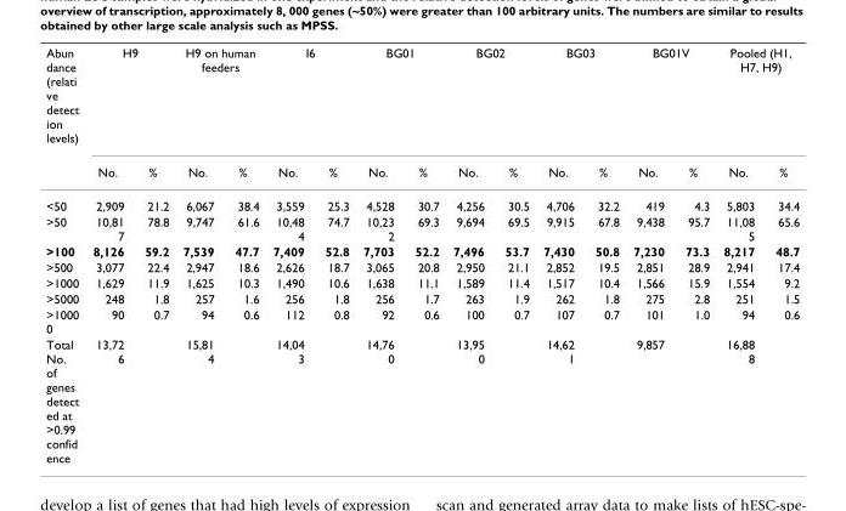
<table><thead><tr><td rowspan="2">Abun dance (relati ve detect ion levels)</td><td colspan="2">H9</td><td colspan="2">H9 on human feeders</td><td colspan="2">I6</td><td colspan="2">BG01</td><td colspan="2">BG02</td><td colspan="2">BG03</td><td colspan="2">BG01V</td><td colspan="2">Pooled (H1, H7, H9)</td></tr><tr><td>No.</td><td>%</td><td>No.</td><td>%</td><td>No.</td><td>%</td><td>No.</td><td>%</td><td>No.</td><td>%</td><td>No.</td><td>%</td><td>No.</td><td>%</td><td>No.</td><td>%</td></tr></thead><tbody><tr><td>&lt;50</td><td>2,909</td><td>21.2</td><td>6,067</td><td>38.4</td><td>3,559</td><td>25.3</td><td>4,528</td><td>30.7</td><td>4,256</td><td>30.5</td><td>4,706</td><td>32.2</td><td>419</td><td>4.3</td><td>5,803</td><td>34.4</td></tr><tr><td>&gt;50</td><td>10,81 7</td><td>78.8</td><td>9,747</td><td>61.6</td><td>10,48 4</td><td>74.7</td><td>10,23 2</td><td>69.3</td><td>9,694</td><td>69.5</td><td>9,915</td><td>67.8</td><td>9,438</td><td>95.7</td><td>11,08 5</td><td>65.6</td></tr><tr><td>&gt;100</td><td>8,126</td><td>59.2</td><td>7,539</td><td>47.7</td><td>7,409</td><td>52.8</td><td>7,703</td><td>52.2</td><td>7,496</td><td>53.7</td><td>7,430</td><td>50.8</td><td>7,230</td><td>73.3</td><td>8,217</td><td>48.7</td></tr><tr><td>&gt;500</td><td>3,077</td><td>22.4</td><td>2,947</td><td>18.6</td><td>2,626</td><td>18.7</td><td>3,065</td><td>20.8</td><td>2,950</td><td>21.1</td><td>2,852</td><td>19.5</td><td>2,851</td><td>28.9</td><td>2,941</td><td>17.4</td></tr><tr><td>&gt;1000</td><td>1,629</td><td>11.9</td><td>1,625</td><td>10.3</td><td>1,490</td><td>10.6</td><td>1,638</td><td>11.1</td><td>1,589</td><td>11.4</td><td>1,517</td><td>10.4</td><td>1,566</td><td>15.9</td><td>1,554</td><td>9.2</td></tr><tr><td>&gt;5000</td><td>248</td><td>1.8</td><td>257</td><td>1.6</td><td>256</td><td>1.8</td><td>256</td><td>1.7</td><td>263</td><td>1.9</td><td>262</td><td>1.8</td><td>275</td><td>2.8</td><td>251</td><td>1.5</td></tr><tr><td>&gt;1000 0</td><td>90</td><td>0.7</td><td>94</td><td>0.6</td><td>112</td><td>0.8</td><td>92</td><td>0.6</td><td>100</td><td>0.7</td><td>107</td><td>0.7</td><td>101</td><td>1.0</td><td>94</td><td>0.6</td></tr><tr><td>Total No. of genes detect ed at &gt;0.99 confid ence</td><td>13,72 6</td><td></td><td>15,81 4</td><td></td><td>14,04 3</td><td></td><td>14,76 0</td><td></td><td>13,95 0</td><td></td><td>14,62 1</td><td></td><td>9,857</td><td></td><td>16,88 8</td><td></td></tr></tbody></table>